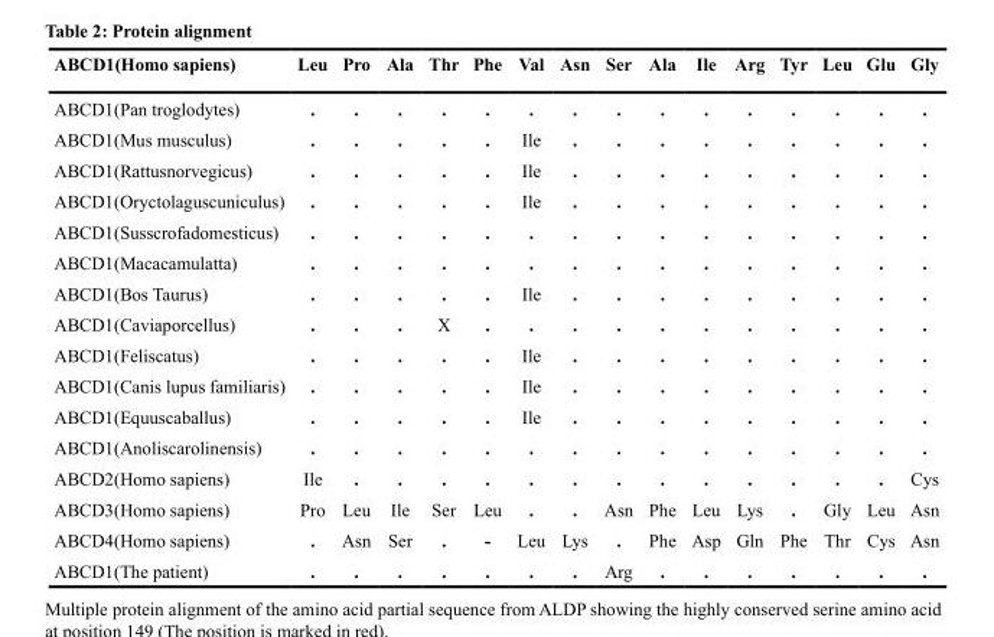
<table><thead><tr><td>ABCD1(Homo sapiens)</td><td>Leu</td><td>Pro</td><td>Ala</td><td>Thr</td><td>Phe</td><td>Val</td><td>Asn</td><td>Ser</td><td>Ala</td><td>Ile</td><td>Arg</td><td>Tyr</td><td>Leu</td><td>Glu</td><td>Gly</td></tr></thead><tbody><tr><td>ABCD1(Pan troglodytes)</td><td>.</td><td>.</td><td>.</td><td>.</td><td>.</td><td>.</td><td>.</td><td>.</td><td>.</td><td>.</td><td>.</td><td>.</td><td>.</td><td>.</td><td>.</td></tr><tr><td>ABCD1(Mus musculus)</td><td>.</td><td>.</td><td>.</td><td>.</td><td>.</td><td>Ile</td><td>.</td><td>.</td><td>.</td><td>.</td><td>.</td><td>.</td><td>.</td><td>.</td><td>.</td></tr><tr><td>ABCD1(Rattusnorvegicus)</td><td>.</td><td>.</td><td>.</td><td>.</td><td>.</td><td>Ile</td><td>.</td><td>.</td><td>.</td><td>.</td><td>.</td><td>.</td><td>.</td><td>.</td><td>.</td></tr><tr><td>ABCD1(Oryctolaguscuniculus)</td><td>.</td><td>.</td><td>.</td><td>.</td><td>.</td><td>Ile</td><td>.</td><td>.</td><td>.</td><td>.</td><td>.</td><td>.</td><td>.</td><td>.</td><td>.</td></tr><tr><td>ABCD1(Susscrofadomesticus)</td><td>.</td><td>.</td><td>.</td><td>.</td><td>.</td><td>.</td><td>.</td><td>.</td><td>.</td><td>.</td><td>.</td><td>.</td><td>.</td><td>.</td><td>.</td></tr><tr><td>ABCD1(Macacamulatta)</td><td>.</td><td>.</td><td>.</td><td>.</td><td>.</td><td>.</td><td>.</td><td>.</td><td>.</td><td>.</td><td>.</td><td>.</td><td>.</td><td>.</td><td>.</td></tr><tr><td>ABCD1(Bos Taurus)</td><td>.</td><td>.</td><td>.</td><td>.</td><td>.</td><td>Ile</td><td>.</td><td>.</td><td>.</td><td>.</td><td>.</td><td>.</td><td>.</td><td>.</td><td>.</td></tr><tr><td>ABCD1(Caviaporcellus)</td><td>.</td><td>.</td><td>.</td><td>X</td><td>.</td><td>.</td><td>.</td><td>.</td><td>.</td><td>.</td><td>.</td><td>.</td><td>.</td><td>.</td><td>.</td></tr><tr><td>ABCD1(Feliscatus)</td><td>.</td><td>.</td><td>.</td><td>.</td><td>.</td><td>Ile</td><td>.</td><td>.</td><td>.</td><td>.</td><td>.</td><td>.</td><td>.</td><td>.</td><td>.</td></tr><tr><td>ABCD1(Canis lupus familiaris)</td><td>.</td><td>.</td><td>.</td><td>.</td><td>.</td><td>Ile</td><td>.</td><td>.</td><td>.</td><td>.</td><td>.</td><td>.</td><td>.</td><td>.</td><td>.</td></tr><tr><td>ABCD1(Equuscaballus)</td><td>.</td><td>.</td><td>.</td><td>.</td><td>.</td><td>Ile</td><td>.</td><td>.</td><td>.</td><td>.</td><td>.</td><td>.</td><td>.</td><td>.</td><td>.</td></tr><tr><td>ABCD1(Anoliscarolinensis)</td><td>.</td><td>.</td><td>.</td><td>.</td><td>.</td><td>.</td><td>.</td><td>.</td><td>.</td><td>.</td><td>.</td><td>.</td><td>.</td><td>.</td><td>.</td></tr><tr><td>ABCD2(Homo sapiens)</td><td>Ile</td><td>.</td><td>.</td><td>.</td><td>.</td><td>.</td><td>.</td><td>.</td><td>.</td><td>.</td><td>.</td><td>.</td><td>.</td><td>.</td><td>Cys</td></tr><tr><td>ABCD3(Homo sapiens)</td><td>Pro</td><td>Leu</td><td>Ile</td><td>Ser</td><td>Leu</td><td>.</td><td>.</td><td>Asn</td><td>Phe</td><td>Leu</td><td>Lys</td><td>.</td><td>Gly</td><td>Leu</td><td>Asn</td></tr><tr><td>ABCD4(Homo sapiens)</td><td>.</td><td>Asn</td><td>Ser</td><td>.</td><td>-</td><td>Leu</td><td>Lys</td><td>.</td><td>Phe</td><td>Asp</td><td>Gln</td><td>Phe</td><td>Thr</td><td>Cys</td><td>Asn</td></tr><tr><td>ABCD1(The patient)</td><td>.</td><td>.</td><td>.</td><td>.</td><td>.</td><td>.</td><td>.</td><td>Arg</td><td>.</td><td>.</td><td>.</td><td>.</td><td>.</td><td>.</td><td>.</td></tr></tbody></table>